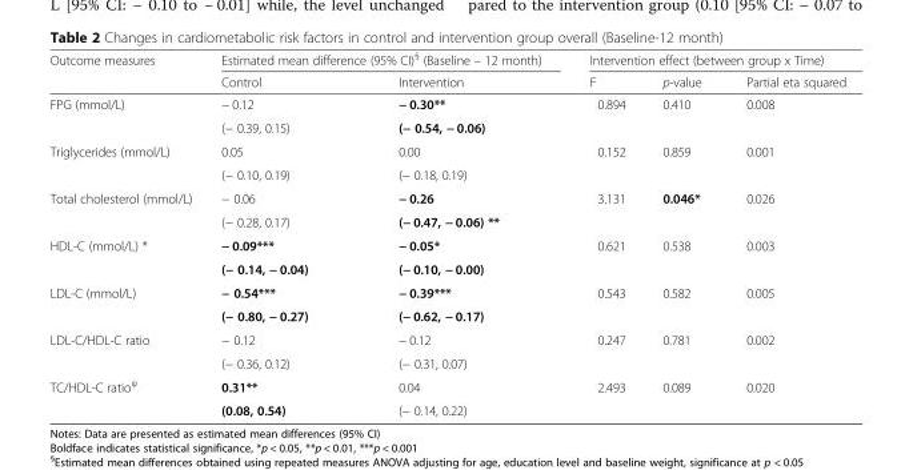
<table><thead><tr><td rowspan="2">Outcome measures</td><td colspan="2">Estimated mean difference (95% CI)<sup>§</sup> (Baseline – 12 month)</td><td colspan="3">Intervention effect (between group x Time)</td></tr><tr><td>Control</td><td>Intervention</td><td>F</td><td>p-value</td><td>Partial eta squared</td></tr></thead><tbody><tr><td rowspan="2">FPG (mmol/L)</td><td>− 0.12</td><td>− 0.30**</td><td rowspan="2">0.894</td><td rowspan="2">0.410</td><td rowspan="2">0.008</td></tr><tr><td>(− 0.39, 0.15)</td><td>(− 0.54, − 0.06)</td></tr><tr><td rowspan="2">Triglycerides (mmol/L)</td><td>0.05</td><td>0.00</td><td rowspan="2">0.152</td><td rowspan="2">0.859</td><td rowspan="2">0.001</td></tr><tr><td>(− 0.10, 0.19)</td><td>(− 0.18, 0.19)</td></tr><tr><td rowspan="2">Total cholesterol (mmol/L)</td><td>− 0.06</td><td>− 0.26</td><td rowspan="2">3.131</td><td rowspan="2">0.046*</td><td rowspan="2">0.026</td></tr><tr><td>(− 0.28, 0.17)</td><td>(− 0.47, − 0.06) **</td></tr><tr><td rowspan="2">HDL-C (mmol/L) *</td><td>− 0.09***</td><td>− 0.05*</td><td rowspan="2">0.621</td><td rowspan="2">0.538</td><td rowspan="2">0.003</td></tr><tr><td>(− 0.14, − 0.04)</td><td>(− 0.10, − 0.00)</td></tr><tr><td rowspan="2">LDL-C (mmol/L)</td><td>− 0.54***</td><td>− 0.39***</td><td rowspan="2">0.543</td><td rowspan="2">0.582</td><td rowspan="2">0.005</td></tr><tr><td>(− 0.80, − 0.27)</td><td>(− 0.62, − 0.17)</td></tr><tr><td rowspan="2">LDL-C/HDL-C ratio</td><td>− 0.12</td><td>− 0.12</td><td rowspan="2">0.247</td><td rowspan="2">0.781</td><td rowspan="2">0.002</td></tr><tr><td>(− 0.36, 0.12)</td><td>(− 0.31, 0.07)</td></tr><tr><td rowspan="2">TC/HDL-C ratio<sup>ψ</sup></td><td>0.31**</td><td>0.04</td><td rowspan="2">2.493</td><td rowspan="2">0.089</td><td rowspan="2">0.020</td></tr><tr><td>(0.08, 0.54)</td><td>(− 0.14, 0.22)</td></tr></tbody></table>